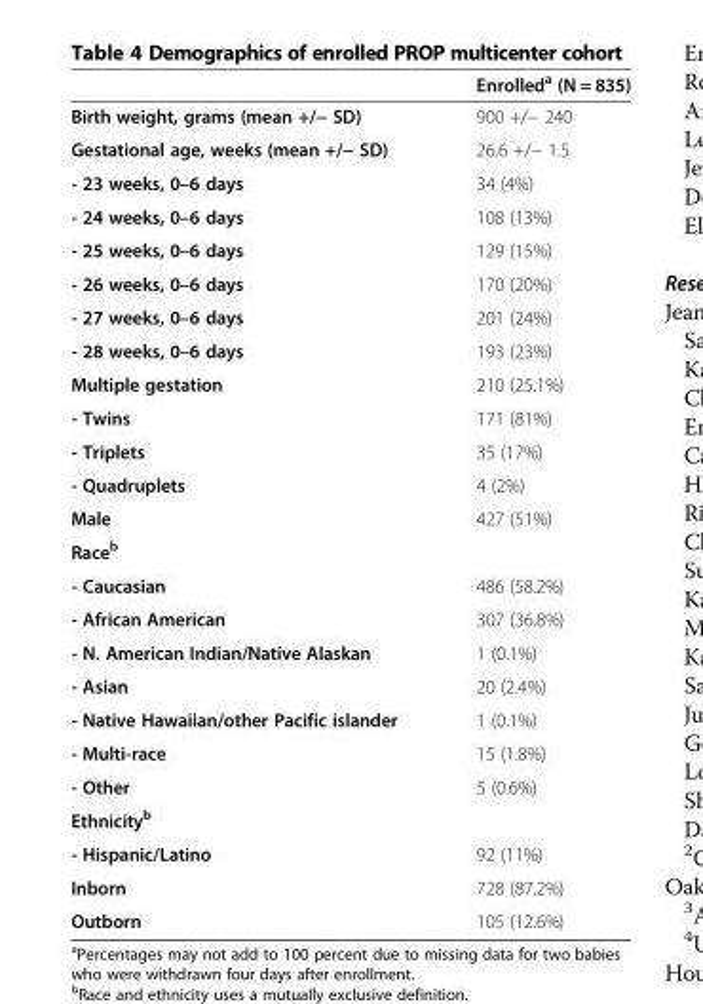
<table><thead><tr><td></td><td>Enrolled<sup>a</sup> (N = 835)</td></tr></thead><tbody><tr><td>Birth weight, grams (mean +/− SD)</td><td>900 +/− 240</td></tr><tr><td>Gestational age, weeks (mean +/− SD)</td><td>26.6 +/− 1.5</td></tr><tr><td>- 23 weeks, 0–6 days</td><td>34 (4%)</td></tr><tr><td>- 24 weeks, 0–6 days</td><td>108 (13%)</td></tr><tr><td>- 25 weeks, 0–6 days</td><td>129 (15%)</td></tr><tr><td>- 26 weeks, 0–6 days</td><td>170 (20%)</td></tr><tr><td>- 27 weeks, 0–6 days</td><td>201 (24%)</td></tr><tr><td>- 28 weeks, 0–6 days</td><td>193 (23%)</td></tr><tr><td>Multiple gestation</td><td>210 (25.1%)</td></tr><tr><td>- Twins</td><td>171 (81%)</td></tr><tr><td>- Triplets</td><td>35 (17%)</td></tr><tr><td>- Quadruplets</td><td>4 (2%)</td></tr><tr><td>Male</td><td>427 (51%)</td></tr><tr><td colspan="2">Race<sup>b</sup></td></tr><tr><td>- Caucasian</td><td>486 (58.2%)</td></tr><tr><td>- African American</td><td>307 (36.8%)</td></tr><tr><td>- N. American Indian/Native Alaskan</td><td>1 (0.1%)</td></tr><tr><td>- Asian</td><td>20 (2.4%)</td></tr><tr><td>- Native Hawaiian/other Pacific islander</td><td>1 (0.1%)</td></tr><tr><td>- Multi-race</td><td>15 (1.8%)</td></tr><tr><td>- Other</td><td>5 (0.6%)</td></tr><tr><td colspan="2">Ethnicity<sup>b</sup></td></tr><tr><td>- Hispanic/Latino</td><td>92 (11%)</td></tr><tr><td>Inborn</td><td>728 (87.2%)</td></tr><tr><td>Outborn</td><td>105 (12.6%)</td></tr></tbody></table>